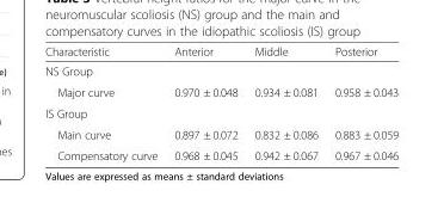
<table><thead><tr><td>Characteristic</td><td>Anterior</td><td>Middle</td><td>Posterior</td></tr></thead><tbody><tr><td colspan="4">NS Group</td></tr><tr><td>Major curve</td><td>0.970 ± 0.048</td><td>0.934 ± 0.081</td><td>0.958 ± 0.043</td></tr><tr><td colspan="4">IS Group</td></tr><tr><td>Main curve</td><td>0.897 ± 0.072</td><td>0.832 ± 0.086</td><td>0.883 ± 0.059</td></tr><tr><td>Compensatory curve</td><td>0.968 ± 0.045</td><td>0.942 ± 0.067</td><td>0.967 ± 0.046</td></tr></tbody></table>